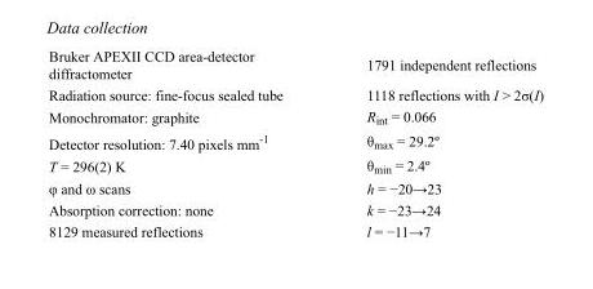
<table><tbody><tr><td>Bruker APEXII CCD area-detector diffractometer</td><td>1791 independent reflections</td></tr><tr><td>Radiation source: fine-focus sealed tube</td><td>1118 reflections with I &gt; 2σ(I)</td></tr><tr><td>Monochromator: graphite</td><td>R<sub>int</sub> = 0.066</td></tr><tr><td>Detector resolution: 7.40 pixels mm<sup>-1</sup></td><td>θ<sub>max</sub> = 29.2º</td></tr><tr><td>T = 296(2) K</td><td>θ<sub>min</sub> = 2.4º</td></tr><tr><td>φ and ω scans</td><td>h = −20→23</td></tr><tr><td>Absorption correction: none</td><td>k = −23→24</td></tr><tr><td>8129 measured reflections</td><td>l = −11→7</td></tr></tbody></table>